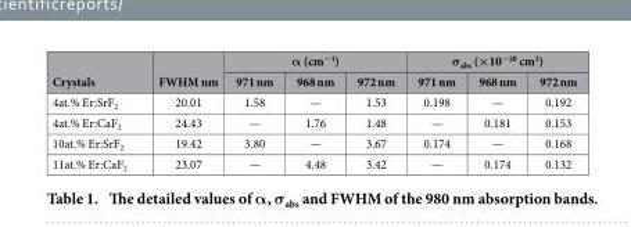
<table><thead><tr><td rowspan="2">Crystals</td><td rowspan="2">FWHM nm</td><td colspan="3">α (cm<sup>−1</sup>)</td><td colspan="3">σ<sub>abs</sub> (×10<sup>−20</sup> cm<sup>2</sup>)</td></tr><tr><td>971 nm</td><td>968 nm</td><td>972 nm</td><td>971 nm</td><td>968 nm</td><td>972 nm</td></tr></thead><tbody><tr><td>4at.% Er:SrF<sub>2</sub></td><td>20.01</td><td>1.58</td><td>—</td><td>1.53</td><td>0.198</td><td>—</td><td>0.192</td></tr><tr><td>4at.% Er:CaF<sub>2</sub></td><td>24.43</td><td>—</td><td>1.76</td><td>1.48</td><td>—</td><td>0.181</td><td>0.153</td></tr><tr><td>10at.% Er:SrF<sub>2</sub></td><td>19.42</td><td>3.80</td><td>—</td><td>3.67</td><td>0.174</td><td>—</td><td>0.168</td></tr><tr><td>11at.% Er:CaF<sub>2</sub></td><td>23.07</td><td>—</td><td>4.48</td><td>3.42</td><td>—</td><td>0.174</td><td>0.132</td></tr></tbody></table>